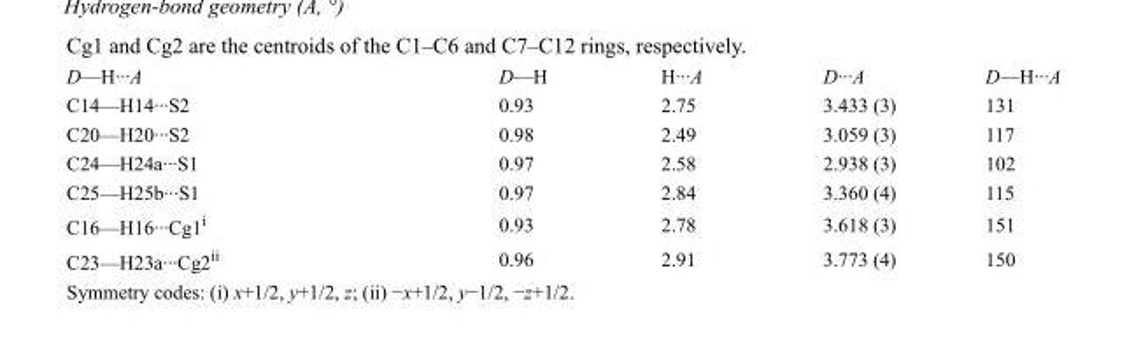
<table><tbody><tr><td>D—H···A</td><td>D—H</td><td>H···A</td><td>D···A</td><td>D—H···A</td></tr><tr><td>C14—H14···S2</td><td>0.93</td><td>2.75</td><td>3.433 (3)</td><td>131</td></tr><tr><td>C20—H20···S2</td><td>0.98</td><td>2.49</td><td>3.059 (3)</td><td>117</td></tr><tr><td>C24—H24a···S1</td><td>0.97</td><td>2.58</td><td>2.938 (3)</td><td>102</td></tr><tr><td>C25—H25b···S1</td><td>0.97</td><td>2.84</td><td>3.360 (4)</td><td>115</td></tr><tr><td>C16—H16···Cg1<sup>i</sup></td><td>0.93</td><td>2.78</td><td>3.618 (3)</td><td>151</td></tr><tr><td>C23—H23a···Cg2<sup>ii</sup></td><td>0.96</td><td>2.91</td><td>3.773 (4)</td><td>150</td></tr></tbody></table>